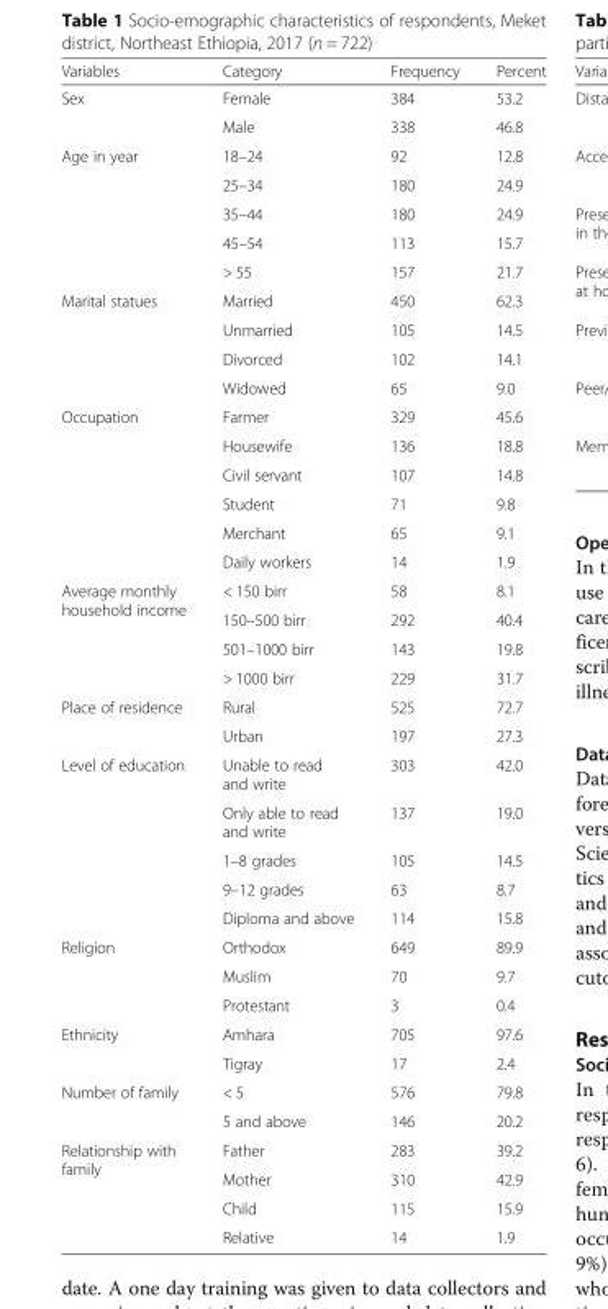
<table><thead><tr><td>Variables</td><td>Category</td><td>Frequency</td><td>Percent</td></tr></thead><tbody><tr><td rowspan="2">Sex</td><td>Female</td><td>384</td><td>53.2</td></tr><tr><td>Male</td><td>338</td><td>46.8</td></tr><tr><td rowspan="5">Age in year</td><td>18–24</td><td>92</td><td>12.8</td></tr><tr><td>25–34</td><td>180</td><td>24.9</td></tr><tr><td>35–44</td><td>180</td><td>24.9</td></tr><tr><td>45–54</td><td>113</td><td>15.7</td></tr><tr><td>&gt; 55</td><td>157</td><td>21.7</td></tr><tr><td rowspan="4">Marital statues</td><td>Married</td><td>450</td><td>62.3</td></tr><tr><td>Unmarried</td><td>105</td><td>14.5</td></tr><tr><td>Divorced</td><td>102</td><td>14.1</td></tr><tr><td>Widowed</td><td>65</td><td>9.0</td></tr><tr><td rowspan="6">Occupation</td><td>Farmer</td><td>329</td><td>45.6</td></tr><tr><td>Housewife</td><td>136</td><td>18.8</td></tr><tr><td>Civil servant</td><td>107</td><td>14.8</td></tr><tr><td>Student</td><td>71</td><td>9.8</td></tr><tr><td>Merchant</td><td>65</td><td>9.1</td></tr><tr><td>Daily workers</td><td>14</td><td>1.9</td></tr><tr><td rowspan="4">Average monthly household income</td><td>&lt; 150 birr</td><td>58</td><td>8.1</td></tr><tr><td>150–500 birr</td><td>292</td><td>40.4</td></tr><tr><td>501–1000 birr</td><td>143</td><td>19.8</td></tr><tr><td>&gt; 1000 birr</td><td>229</td><td>31.7</td></tr><tr><td rowspan="2">Place of residence</td><td>Rural</td><td>525</td><td>72.7</td></tr><tr><td>Urban</td><td>197</td><td>27.3</td></tr><tr><td rowspan="5">Level of education</td><td>Unable to read and write</td><td>303</td><td>42.0</td></tr><tr><td>Only able to read and write</td><td>137</td><td>19.0</td></tr><tr><td>1–8 grades</td><td>105</td><td>14.5</td></tr><tr><td>9–12 grades</td><td>63</td><td>8.7</td></tr><tr><td>Diploma and above</td><td>114</td><td>15.8</td></tr><tr><td rowspan="3">Religion</td><td>Orthodox</td><td>649</td><td>89.9</td></tr><tr><td>Muslim</td><td>70</td><td>9.7</td></tr><tr><td>Protestant</td><td>3</td><td>0.4</td></tr><tr><td rowspan="2">Ethnicity</td><td>Amhara</td><td>705</td><td>97.6</td></tr><tr><td>Tigray</td><td>17</td><td>2.4</td></tr><tr><td rowspan="2">Number of family</td><td>&lt; 5</td><td>576</td><td>79.8</td></tr><tr><td>5 and above</td><td>146</td><td>20.2</td></tr><tr><td rowspan="4">Relationship with family</td><td>Father</td><td>283</td><td>39.2</td></tr><tr><td>Mother</td><td>310</td><td>42.9</td></tr><tr><td>Child</td><td>115</td><td>15.9</td></tr><tr><td>Relative</td><td>14</td><td>1.9</td></tr></tbody></table>